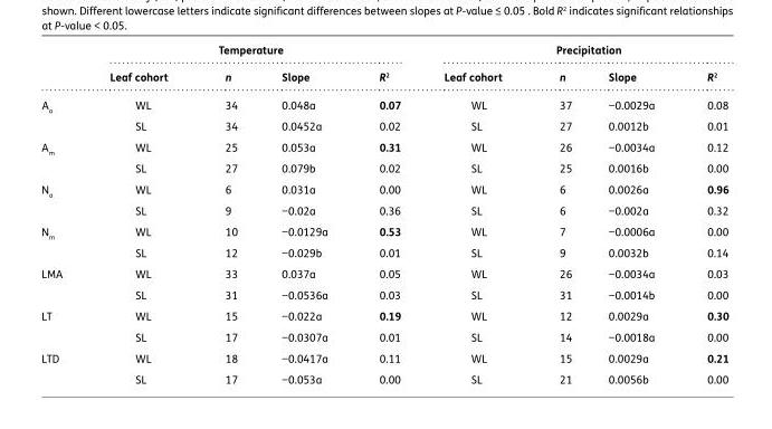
<table><thead><tr><td rowspan="2"></td><td colspan="4">Temperature</td><td colspan="4">Precipitation</td></tr><tr><td>Leaf cohort</td><td>n</td><td>Slope</td><td>R<sup>2</sup></td><td>Leaf cohort</td><td>n</td><td>Slope</td><td>R<sup>2</sup></td></tr></thead><tbody><tr><td rowspan="2">A<sub>a</sub></td><td>WL</td><td>34</td><td>0.048a</td><td>0.07</td><td>WL</td><td>37</td><td>−0.0029a</td><td>0.08</td></tr><tr><td>SL</td><td>34</td><td>0.0452a</td><td>0.02</td><td>SL</td><td>27</td><td>0.0012b</td><td>0.01</td></tr><tr><td rowspan="2">A<sub>m</sub></td><td>WL</td><td>25</td><td>0.053a</td><td>0.31</td><td>WL</td><td>26</td><td>−0.0034a</td><td>0.12</td></tr><tr><td>SL</td><td>27</td><td>0.079b</td><td>0.02</td><td>SL</td><td>25</td><td>0.0016b</td><td>0.00</td></tr><tr><td rowspan="2">N<sub>a</sub></td><td>WL</td><td>6</td><td>0.031a</td><td>0.00</td><td>WL</td><td>6</td><td>0.0026a</td><td>0.96</td></tr><tr><td>SL</td><td>9</td><td>−0.02a</td><td>0.36</td><td>SL</td><td>6</td><td>−0.002a</td><td>0.32</td></tr><tr><td rowspan="2">N<sub>m</sub></td><td>WL</td><td>10</td><td>−0.0129a</td><td>0.53</td><td>WL</td><td>7</td><td>−0.0006a</td><td>0.00</td></tr><tr><td>SL</td><td>12</td><td>−0.029b</td><td>0.01</td><td>SL</td><td>9</td><td>0.0032b</td><td>0.14</td></tr><tr><td rowspan="2">LMA</td><td>WL</td><td>33</td><td>0.037a</td><td>0.05</td><td>WL</td><td>26</td><td>−0.0034a</td><td>0.03</td></tr><tr><td>SL</td><td>31</td><td>−0.0536a</td><td>0.03</td><td>SL</td><td>31</td><td>−0.0014b</td><td>0.00</td></tr><tr><td rowspan="2">LT</td><td>WL</td><td>15</td><td>−0.022a</td><td>0.19</td><td>WL</td><td>12</td><td>0.0029a</td><td>0.30</td></tr><tr><td>SL</td><td>17</td><td>−0.0307a</td><td>0.01</td><td>SL</td><td>14</td><td>−0.0018a</td><td>0.00</td></tr><tr><td rowspan="2">LTD</td><td>WL</td><td>18</td><td>−0.0417a</td><td>0.11</td><td>WL</td><td>15</td><td>0.0029a</td><td>0.21</td></tr><tr><td>SL</td><td>17</td><td>−0.053a</td><td>0.00</td><td>SL</td><td>21</td><td>0.0056b</td><td>0.00</td></tr></tbody></table>